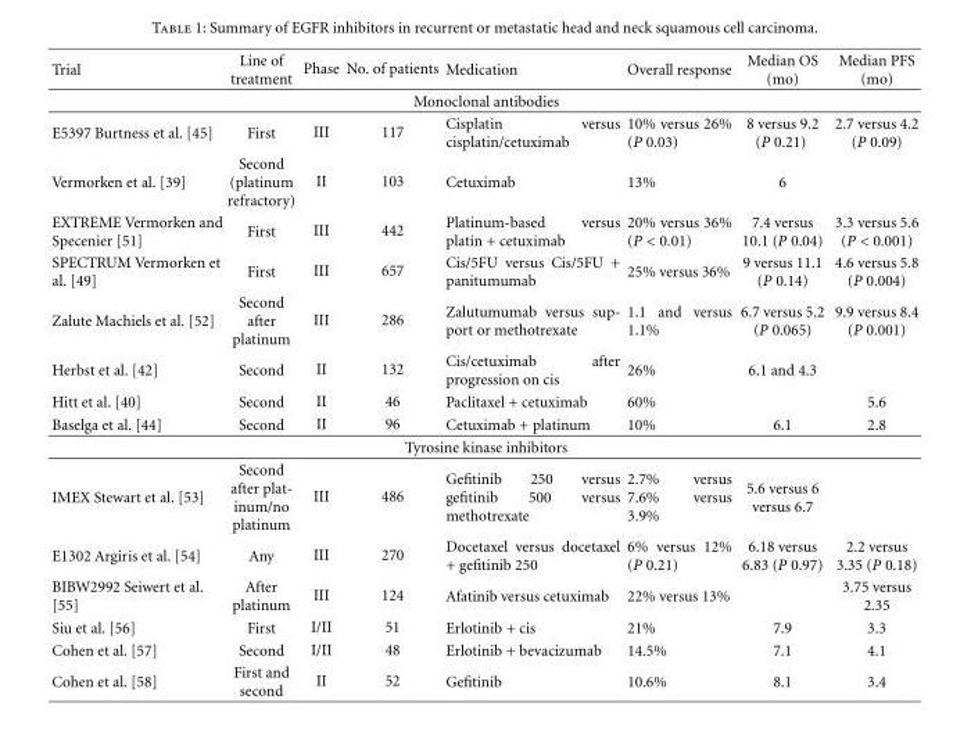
<table><thead><tr><td>Trial</td><td>Line of treatment</td><td>Phase</td><td>No. of patients</td><td>Medication</td><td>Overall response</td><td>Median OS (mo)</td><td>Median PFS (mo)</td></tr></thead><tbody><tr><td colspan="8">Monoclonal antibodies</td></tr><tr><td>E5397 Burtness et al. [45]</td><td>First</td><td>III</td><td>117</td><td>Cisplatin versus cisplatin/cetuximab</td><td>10% versus 26% (P 0.03)</td><td>8 versus 9.2 (P 0.21)</td><td>2.7 versus 4.2 (P 0.09)</td></tr><tr><td>Vermorken et al. [39]</td><td>Second (platinum refractory)</td><td>II</td><td>103</td><td>Cetuximab</td><td>13%</td><td>6</td><td></td></tr><tr><td>EXTREME Vermorken and Specenier [51]</td><td>First</td><td>III</td><td>442</td><td>Platinum-based versus platin + cetuximab</td><td>20% versus 36% (P &lt; 0.01)</td><td>7.4 versus 10.1 (P 0.04)</td><td>3.3 versus 5.6 (P &lt; 0.001)</td></tr><tr><td>SPECTRUM Vermorken et al. [49]</td><td>First</td><td>III</td><td>657</td><td>Cis/5FU versus Cis/5FU + panitumumab</td><td>25% versus 36%</td><td>9 versus 11.1 (P 0.14)</td><td>4.6 versus 5.8 (P 0.004)</td></tr><tr><td>Zalute Machiels et al. [52]</td><td>Second after platinum</td><td>III</td><td>286</td><td>Zalutumumab versus sup- port or methotrexate</td><td>1.1 and versus 1.1%</td><td>6.7 versus 5.2 (P 0.065)</td><td>9.9 versus 8.4 (P 0.001)</td></tr><tr><td>Herbst et al. [42]</td><td>Second</td><td>II</td><td>132</td><td>Cis/cetuximab after progression on cis</td><td>26%</td><td>6.1 and 4.3</td><td></td></tr><tr><td>Hitt et al. [40]</td><td>Second</td><td>II</td><td>46</td><td>Paclitaxel + cetuximab</td><td>60%</td><td></td><td>5.6</td></tr><tr><td>Baselga et al. [44]</td><td>Second</td><td>II</td><td>96</td><td>Cetuximab + platinum</td><td>10%</td><td>6.1</td><td>2.8</td></tr><tr><td colspan="8">Tyrosine kinase inhibitors</td></tr><tr><td>IMEX Stewart et al. [53]</td><td>Second after plat- inum/no platinum</td><td>III</td><td>486</td><td>Gefitinib 250 versus gefitinib 500 versus methotrexate</td><td>2.7% versus 7.6% versus 3.9%</td><td>5.6 versus 6 versus 6.7</td><td></td></tr><tr><td>E1302 Argiris et al. [54]</td><td>Any</td><td>III</td><td>270</td><td>Docetaxel versus docetaxel + gefitinib 250</td><td>6% versus 12% (P 0.21)</td><td>6.18 versus 6.83 (P 0.97)</td><td>2.2 versus 3.35 (P 0.18)</td></tr><tr><td>BIBW2992 Seiwert et al. [55]</td><td>After platinum</td><td>III</td><td>124</td><td>Afatinib versus cetuximab</td><td>22% versus 13%</td><td></td><td>3.75 versus 2.35</td></tr><tr><td>Siu et al. [56]</td><td>First</td><td>I/II</td><td>51</td><td>Erlotinib + cis</td><td>21%</td><td>7.9</td><td>3.3</td></tr><tr><td>Cohen et al. [57]</td><td>Second</td><td>I/II</td><td>48</td><td>Erlotinib + bevacizumab</td><td>14.5%</td><td>7.1</td><td>4.1</td></tr><tr><td>Cohen et al. [58]</td><td>First and second</td><td>II</td><td>52</td><td>Gefitinib</td><td>10.6%</td><td>8.1</td><td>3.4</td></tr></tbody></table>